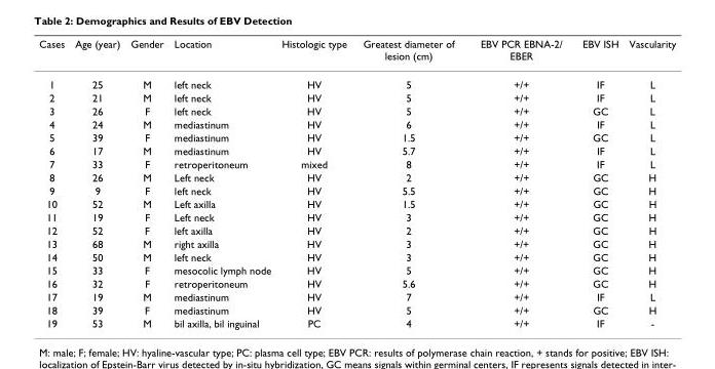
<table><thead><tr><td>Cases</td><td>Age (year)</td><td>Gender</td><td>Location</td><td>Histologic type</td><td>Greatest diameter of lesion (cm)</td><td>EBV PCR EBNA-2/ EBER</td><td>EBV ISH</td><td>Vascularity</td></tr></thead><tbody><tr><td>1</td><td>25</td><td>M</td><td>left neck</td><td>HV</td><td>5</td><td>+/+</td><td>IF</td><td>L</td></tr><tr><td>2</td><td>21</td><td>M</td><td>left neck</td><td>HV</td><td>5</td><td>+/+</td><td>IF</td><td>L</td></tr><tr><td>3</td><td>26</td><td>F</td><td>left neck</td><td>HV</td><td>5</td><td>+/+</td><td>GC</td><td>L</td></tr><tr><td>4</td><td>24</td><td>M</td><td>mediastinum</td><td>HV</td><td>6</td><td>+/+</td><td>IF</td><td>L</td></tr><tr><td>5</td><td>39</td><td>F</td><td>mediastinum</td><td>HV</td><td>1.5</td><td>+/+</td><td>GC</td><td>L</td></tr><tr><td>6</td><td>17</td><td>M</td><td>mediastinum</td><td>HV</td><td>5.7</td><td>+/+</td><td>IF</td><td>L</td></tr><tr><td>7</td><td>33</td><td>F</td><td>retroperitoneum</td><td>mixed</td><td>8</td><td>+/+</td><td>IF</td><td>L</td></tr><tr><td>8</td><td>26</td><td>M</td><td>Left neck</td><td>HV</td><td>2</td><td>+/+</td><td>GC</td><td>H</td></tr><tr><td>9</td><td>9</td><td>F</td><td>left neck</td><td>HV</td><td>5.5</td><td>+/+</td><td>GC</td><td>H</td></tr><tr><td>10</td><td>52</td><td>M</td><td>Left axilla</td><td>HV</td><td>1.5</td><td>+/+</td><td>GC</td><td>H</td></tr><tr><td>11</td><td>19</td><td>F</td><td>Left neck</td><td>HV</td><td>3</td><td>+/+</td><td>GC</td><td>H</td></tr><tr><td>12</td><td>52</td><td>F</td><td>left axilla</td><td>HV</td><td>2</td><td>+/+</td><td>GC</td><td>H</td></tr><tr><td>13</td><td>68</td><td>M</td><td>right axilla</td><td>HV</td><td>3</td><td>+/+</td><td>GC</td><td>H</td></tr><tr><td>14</td><td>50</td><td>M</td><td>left neck</td><td>HV</td><td>3</td><td>+/+</td><td>GC</td><td>H</td></tr><tr><td>15</td><td>33</td><td>F</td><td>mesocolic lymph node</td><td>HV</td><td>5</td><td>+/+</td><td>GC</td><td>H</td></tr><tr><td>16</td><td>32</td><td>F</td><td>retroperitoneum</td><td>HV</td><td>5.6</td><td>+/+</td><td>GC</td><td>H</td></tr><tr><td>17</td><td>19</td><td>M</td><td>mediastinum</td><td>HV</td><td>7</td><td>+/+</td><td>IF</td><td>L</td></tr><tr><td>18</td><td>39</td><td>F</td><td>mediastinum</td><td>HV</td><td>5</td><td>+/+</td><td>GC</td><td>H</td></tr><tr><td>19</td><td>53</td><td>M</td><td>bil axilla, bil inguinal</td><td>PC</td><td>4</td><td>+/+</td><td>IF</td><td>-</td></tr></tbody></table>